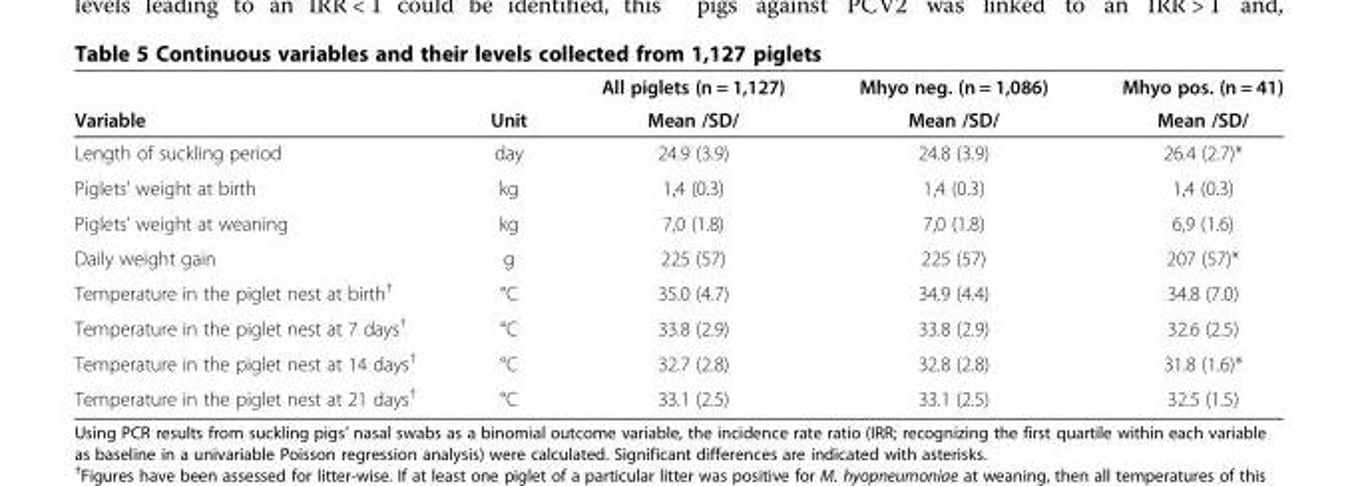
<table><thead><tr><td rowspan="2">Variable</td><td rowspan="2">Unit</td><td rowspan="2">All piglets (n = 1,127) Mean /SD/</td><td rowspan="2">Mhyo neg. (n = 1,086) Mean /SD/</td><td rowspan="2">Mhyo pos. (n = 41) Mean /SD/</td></tr><tr></tr></thead><tbody><tr><td>Length of suckling period</td><td>day</td><td>24.9 (3.9)</td><td>24.8 (3.9)</td><td>26.4 (2.7)*</td></tr><tr><td>Piglets’ weight at birth</td><td>kg</td><td>1,4 (0.3)</td><td>1,4 (0.3)</td><td>1,4 (0.3)</td></tr><tr><td>Piglets’ weight at weaning</td><td>kg</td><td>7,0 (1.8)</td><td>7,0 (1.8)</td><td>6,9 (1.6)</td></tr><tr><td>Daily weight gain</td><td>g</td><td>225 (57)</td><td>225 (57)</td><td>207 (57)*</td></tr><tr><td>Temperature in the piglet nest at birth<sup>†</sup></td><td>°C</td><td>35.0 (4.7)</td><td>34.9 (4.4)</td><td>34.8 (7.0)</td></tr><tr><td>Temperature in the piglet nest at 7 days<sup>†</sup></td><td>°C</td><td>33.8 (2.9)</td><td>33.8 (2.9)</td><td>32.6 (2.5)</td></tr><tr><td>Temperature in the piglet nest at 14 days<sup>†</sup></td><td>°C</td><td>32.7 (2.8)</td><td>32.8 (2.8)</td><td>31.8 (1.6)*</td></tr><tr><td>Temperature in the piglet nest at 21 days<sup>†</sup></td><td>°C</td><td>33.1 (2.5)</td><td>33.1 (2.5)</td><td>32.5 (1.5)</td></tr></tbody></table>